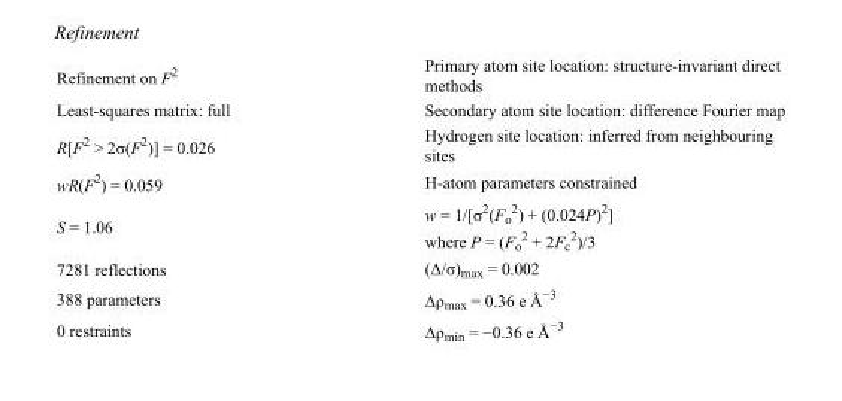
<table><tbody><tr><td>Refinement on F<sup>2</sup></td><td>Primary atom site location: structure-invariant direct methods</td></tr><tr><td>Least-squares matrix: full</td><td>Secondary atom site location: difference Fourier map</td></tr><tr><td>R[F<sup>2</sup> &gt; 2σ(F<sup>2</sup>)] = 0.026</td><td>Hydrogen site location: inferred from neighbouring sites</td></tr><tr><td>wR(F<sup>2</sup>) = 0.059</td><td>H-atom parameters constrained</td></tr><tr><td>S = 1.06</td><td>w = 1/[σ<sup>2</sup>(F<sub>o</sub> <sup>2</sup>) + (0.024P)<sup>2</sup>] where P = (F<sub>o</sub> <sup>2</sup> + 2F<sub>c</sub> <sup>2</sup>)/3</td></tr><tr><td>7281 reflections</td><td>(Δ/σ)<sub>max</sub> = 0.002</td></tr><tr><td>388 parameters</td><td>Δρ<sub>max</sub> = 0.36 e Å<sup>−3</sup></td></tr><tr><td>0 restraints</td><td>Δρ<sub>min</sub> = −0.36 e Å<sup>−3</sup></td></tr></tbody></table>